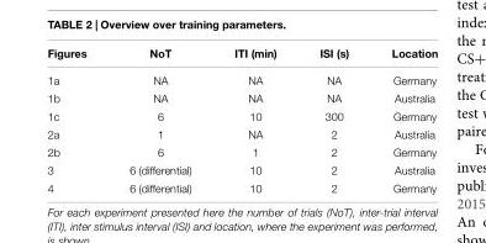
<table><thead><tr><td>Figures</td><td>NoT</td><td>ITI (min)</td><td>ISI (s)</td><td>Location</td></tr></thead><tbody><tr><td>1a</td><td>NA</td><td>NA</td><td>NA</td><td>Germany</td></tr><tr><td>1b</td><td>NA</td><td>NA</td><td>NA</td><td>Australia</td></tr><tr><td>1c</td><td>6</td><td>10</td><td>300</td><td>Germany</td></tr><tr><td>2a</td><td>1</td><td>NA</td><td>2</td><td>Australia</td></tr><tr><td>2b</td><td>6</td><td>1</td><td>2</td><td>Germany</td></tr><tr><td>3</td><td>6 (differential)</td><td>10</td><td>2</td><td>Australia</td></tr><tr><td>4</td><td>6 (differential)</td><td>10</td><td>2</td><td>Germany</td></tr></tbody></table>